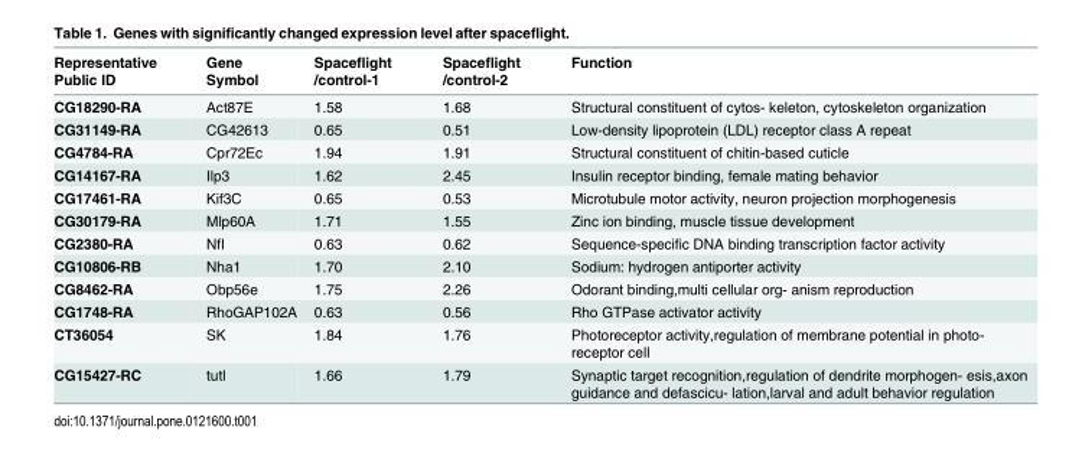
<table><thead><tr><td>Representative Public ID</td><td>Gene Symbol</td><td>Spaceflight /control-1</td><td>Spaceflight /control-2</td><td>Function</td></tr></thead><tbody><tr><td>CG18290-RA</td><td>Act87E</td><td>1.58</td><td>1.68</td><td>Structural constituent of cytos- keleton, cytoskeleton organization</td></tr><tr><td>CG31149-RA</td><td>CG42613</td><td>0.65</td><td>0.51</td><td>Low-density lipoprotein (LDL) receptor class A repeat</td></tr><tr><td>CG4784-RA</td><td>Cpr72Ec</td><td>1.94</td><td>1.91</td><td>Structural constituent of chitin-based cuticle</td></tr><tr><td>CG14167-RA</td><td>Ilp3</td><td>1.62</td><td>2.45</td><td>Insulin receptor binding, female mating behavior</td></tr><tr><td>CG17461-RA</td><td>Kif3C</td><td>0.65</td><td>0.53</td><td>Microtubule motor activity, neuron projection morphogenesis</td></tr><tr><td>CG30179-RA</td><td>Mlp60A</td><td>1.71</td><td>1.55</td><td>Zinc ion binding, muscle tissue development</td></tr><tr><td>CG2380-RA</td><td>NfI</td><td>0.63</td><td>0.62</td><td>Sequence-specific DNA binding transcription factor activity</td></tr><tr><td>CG10806-RB</td><td>Nha1</td><td>1.70</td><td>2.10</td><td>Sodium: hydrogen antiporter activity</td></tr><tr><td>CG8462-RA</td><td>Obp56e</td><td>1.75</td><td>2.26</td><td>Odorant binding,multi cellular org- anism reproduction</td></tr><tr><td>CG1748-RA</td><td>RhoGAP102A</td><td>0.63</td><td>0.56</td><td>Rho GTPase activator activity</td></tr><tr><td>CT36054</td><td>SK</td><td>1.84</td><td>1.76</td><td>Photoreceptor activity,regulation of membrane potential in photo- receptor cell</td></tr><tr><td>CG15427-RC</td><td>tutl</td><td>1.66</td><td>1.79</td><td>Synaptic target recognition,regulation of dendrite morphogen- esis,axon guidance and defascicu- lation,larval and adult behavior regulation</td></tr></tbody></table>